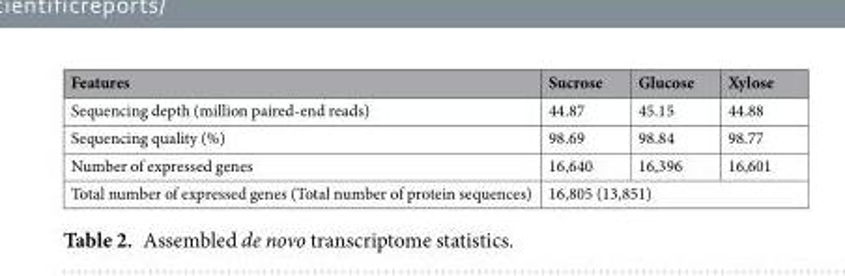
<table><thead><tr><td>Features</td><td>Sucrose</td><td>Glucose</td><td>Xylose</td></tr></thead><tbody><tr><td>Sequencing depth (million paired-end reads)</td><td>44.87</td><td>45.15</td><td>44.88</td></tr><tr><td>Sequencing quality (%)</td><td>98.69</td><td>98.84</td><td>98.77</td></tr><tr><td>Number of expressed genes</td><td>16,640</td><td>16,396</td><td>16,601</td></tr><tr><td>Total number of expressed genes (Total number of protein sequences)</td><td colspan="3">16,805 (13,851)</td></tr></tbody></table>